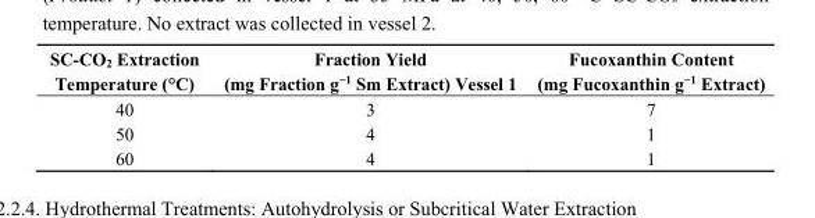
<table><thead><tr><td>SC-CO<sub>2</sub> Extraction Temperature (°C)</td><td>Fraction Yield (mg Fraction g<sup>−1</sup> Sm Extract) Vessel 1</td><td>Fucoxanthin Content (mg Fucoxanthin g<sup>−1</sup> Extract)</td></tr></thead><tbody><tr><td>40</td><td>3</td><td>7</td></tr><tr><td>50</td><td>4</td><td>1</td></tr><tr><td>60</td><td>4</td><td>1</td></tr></tbody></table>